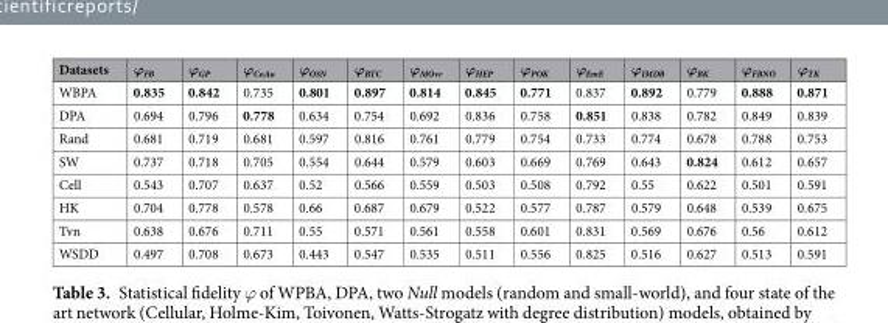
<table><thead><tr><td>Datasets</td><td>ϕ<sub>FB</sub></td><td>ϕ<sub>GP</sub></td><td>ϕ<sub>CoAu</sub></td><td>ϕ<sub>OSN</sub></td><td>ϕ<sub>BTC</sub></td><td>ϕ<sub>MOvr</sub></td><td>ϕ<sub>HEP</sub></td><td>ϕ<sub>POK</sub></td><td>ϕ<sub>EmE</sub></td><td>ϕ<sub>IMDB</sub></td><td>ϕ<sub>BK</sub></td><td>ϕ<sub>FBNO</sub></td><td>ϕ<sub>TK</sub></td></tr></thead><tbody><tr><td>WBPA</td><td>0.835</td><td>0.842</td><td>0.735</td><td>0.801</td><td>0.897</td><td>0.814</td><td>0.845</td><td>0.771</td><td>0.837</td><td>0.892</td><td>0.779</td><td>0.888</td><td>0.871</td></tr><tr><td>DPA</td><td>0.694</td><td>0.796</td><td>0.778</td><td>0.634</td><td>0.754</td><td>0.692</td><td>0.836</td><td>0.758</td><td>0.851</td><td>0.838</td><td>0.782</td><td>0.849</td><td>0.839</td></tr><tr><td>Rand</td><td>0.681</td><td>0.719</td><td>0.681</td><td>0.597</td><td>0.816</td><td>0.761</td><td>0.779</td><td>0.754</td><td>0.733</td><td>0.774</td><td>0.678</td><td>0.788</td><td>0.753</td></tr><tr><td>SW</td><td>0.737</td><td>0.718</td><td>0.705</td><td>0.554</td><td>0.644</td><td>0.579</td><td>0.603</td><td>0.669</td><td>0.769</td><td>0.643</td><td>0.824</td><td>0.612</td><td>0.657</td></tr><tr><td>Cell</td><td>0.543</td><td>0.707</td><td>0.637</td><td>0.52</td><td>0.566</td><td>0.559</td><td>0.503</td><td>0.508</td><td>0.792</td><td>0.55</td><td>0.622</td><td>0.501</td><td>0.591</td></tr><tr><td>HK</td><td>0.704</td><td>0.778</td><td>0.578</td><td>0.66</td><td>0.687</td><td>0.679</td><td>0.522</td><td>0.577</td><td>0.787</td><td>0.579</td><td>0.648</td><td>0.539</td><td>0.675</td></tr><tr><td>Tvn</td><td>0.638</td><td>0.676</td><td>0.711</td><td>0.55</td><td>0.571</td><td>0.561</td><td>0.558</td><td>0.601</td><td>0.831</td><td>0.569</td><td>0.676</td><td>0.56</td><td>0.612</td></tr><tr><td>WSDD</td><td>0.497</td><td>0.708</td><td>0.673</td><td>0.443</td><td>0.547</td><td>0.535</td><td>0.511</td><td>0.556</td><td>0.825</td><td>0.516</td><td>0.627</td><td>0.513</td><td>0.591</td></tr></tbody></table>